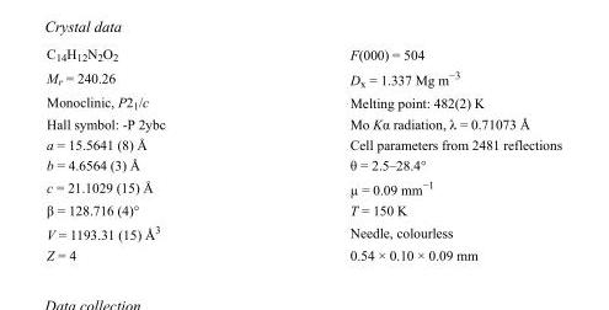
<table><tbody><tr><td>C<sub>14</sub>H<sub>12</sub>N<sub>2</sub>O<sub>2</sub></td><td>F(000) = 504</td></tr><tr><td>M<sub>r</sub> = 240.26</td><td>D<sub>x</sub> = 1.337 Mg m<sup>−3</sup></td></tr><tr><td>Monoclinic, P2<sub>1</sub>/c</td><td>Melting point: 482(2) K</td></tr><tr><td>Hall symbol: -P 2ybc</td><td>Mo Kα radiation, λ = 0.71073 Å</td></tr><tr><td>a = 15.5641 (8) Å</td><td>Cell parameters from 2481 reflections</td></tr><tr><td>b = 4.6564 (3) Å</td><td>θ = 2.5–28.4°</td></tr><tr><td>c = 21.1029 (15) Å</td><td>µ = 0.09 mm<sup>−1</sup></td></tr><tr><td>β = 128.716 (4)°</td><td>T = 150 K</td></tr><tr><td>V = 1193.31 (15) Å<sup>3</sup></td><td>Needle, colourless</td></tr><tr><td>Z = 4</td><td>0.54 × 0.10 × 0.09 mm</td></tr></tbody></table>